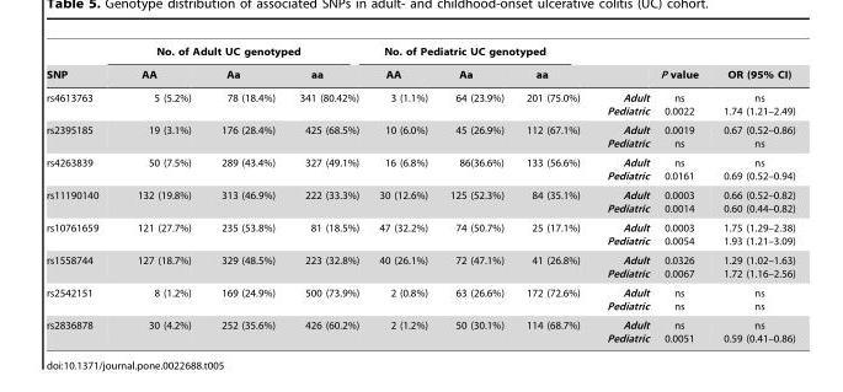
<table><thead><tr><td rowspan="2">SNP</td><td colspan="3">No. of Adult UC genotyped</td><td colspan="3">No. of Pediatric UC genotyped</td><td rowspan="2"></td><td rowspan="2">P value</td><td rowspan="2">OR (95% CI)</td></tr><tr><td>AA</td><td>Aa</td><td>aa</td><td>AA</td><td>Aa</td><td>aa</td></tr></thead><tbody><tr><td>rs4613763</td><td>5 (5.2%)</td><td>78 (18.4%)</td><td>341 (80.42%)</td><td>3 (1.1%)</td><td>64 (23.9%)</td><td>201 (75.0%)</td><td>Adult Pediatric</td><td>ns 0.0022</td><td>ns 1.74 (1.21–2.49)</td></tr><tr><td>rs2395185</td><td>19 (3.1%)</td><td>176 (28.4%)</td><td>425 (68.5%)</td><td>10 (6.0%)</td><td>45 (26.9%)</td><td>112 (67.1%)</td><td>Adult Pediatric</td><td>0.0019 ns</td><td>0.67 (0.52–0.86) ns</td></tr><tr><td>rs4263839</td><td>50 (7.5%)</td><td>289 (43.4%)</td><td>327 (49.1%)</td><td>16 (6.8%)</td><td>86(36.6%)</td><td>133 (56.6%)</td><td>Adult Pediatric</td><td>ns 0.0161</td><td>ns 0.69 (0.52–0.94)</td></tr><tr><td>rs11190140</td><td>132 (19.8%)</td><td>313 (46.9%)</td><td>222 (33.3%)</td><td>30 (12.6%)</td><td>125 (52.3%)</td><td>84 (35.1%)</td><td>Adult Pediatric</td><td>0.0003 0.0014</td><td>0.66 (0.52–0.82) 0.60 (0.44–0.82)</td></tr><tr><td>rs10761659</td><td>121 (27.7%)</td><td>235 (53.8%)</td><td>81 (18.5%)</td><td>47 (32.2%)</td><td>74 (50.7%)</td><td>25 (17.1%)</td><td>Adult Pediatric</td><td>0.0003 0.0054</td><td>1.75 (1.29–2.38) 1.93 (1.21–3.09)</td></tr><tr><td>rs1558744</td><td>127 (18.7%)</td><td>329 (48.5%)</td><td>223 (32.8%)</td><td>40 (26.1%)</td><td>72 (47.1%)</td><td>41 (26.8%)</td><td>Adult Pediatric</td><td>0.0326 0.0067</td><td>1.29 (1.02–1.63) 1.72 (1.16–2.56)</td></tr><tr><td>rs2542151</td><td>8 (1.2%)</td><td>169 (24.9%)</td><td>500 (73.9%)</td><td>2 (0.8%)</td><td>63 (26.6%)</td><td>172 (72.6%)</td><td>Adult Pediatric</td><td>ns ns</td><td>ns ns</td></tr><tr><td>rs2836878</td><td>30 (4.2%)</td><td>252 (35.6%)</td><td>426 (60.2%)</td><td>2 (1.2%)</td><td>50 (30.1%)</td><td>114 (68.7%)</td><td>Adult Pediatric</td><td>ns 0.0051</td><td>ns 0.59 (0.41–0.86)</td></tr></tbody></table>